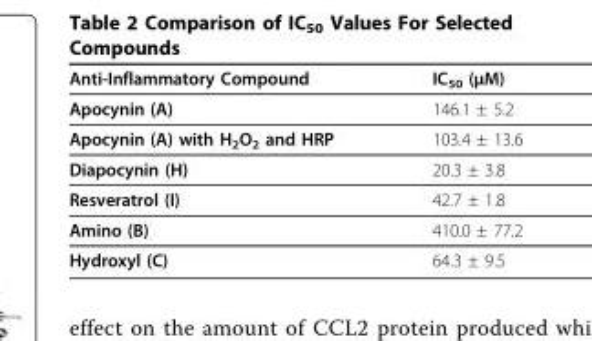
<table><thead><tr><td>Anti-Inflammatory Compound</td><td>IC<sub>50</sub> (μM)</td></tr></thead><tbody><tr><td>Apocynin (A)</td><td>146.1 ± 5.2</td></tr><tr><td>Apocynin (A) with H<sub>2</sub>O<sub>2</sub> and HRP</td><td>103.4 ± 13.6</td></tr><tr><td>Diapocynin (H)</td><td>20.3 ± 3.8</td></tr><tr><td>Resveratrol (I)</td><td>42.7 ± 1.8</td></tr><tr><td>Amino (B)</td><td>410.0 ± 77.2</td></tr><tr><td>Hydroxyl (C)</td><td>64.3 ± 9.5</td></tr></tbody></table>